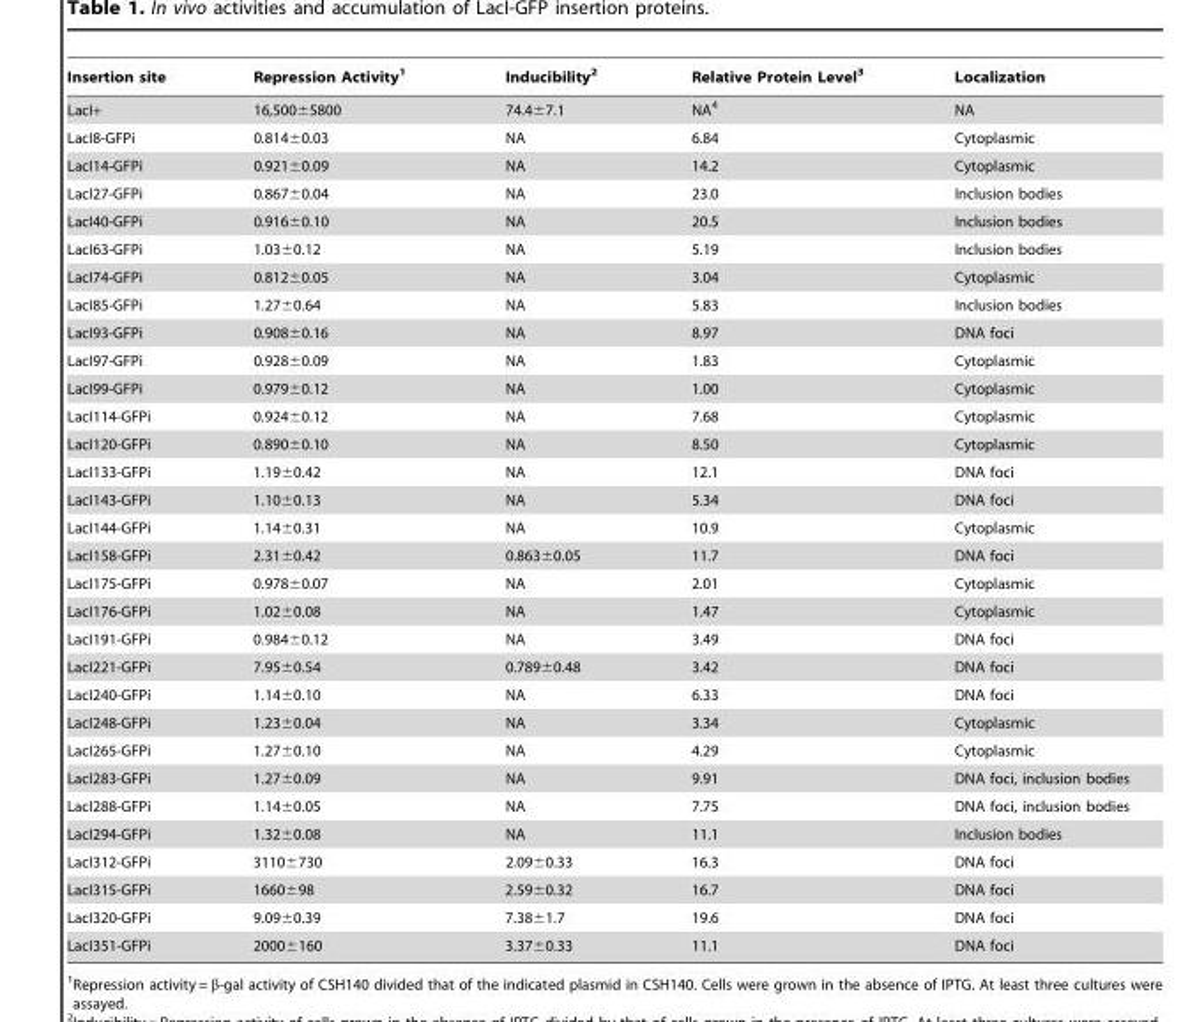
<table><thead><tr><td>Insertion site</td><td>Repression Activity<sup>1</sup></td><td>Inducibility<sup>2</sup></td><td>Relative Protein Level<sup>3</sup></td><td>Localization</td></tr></thead><tbody><tr><td>LacI+</td><td>16,500±5800</td><td>74.4±7.1</td><td>NA<sup>4</sup></td><td>NA</td></tr><tr><td>LacI8-GFPi</td><td>0.814±0.03</td><td>NA</td><td>6.84</td><td>Cytoplasmic</td></tr><tr><td>LacI14-GFPi</td><td>0.921±0.09</td><td>NA</td><td>14.2</td><td>Cytoplasmic</td></tr><tr><td>LacI27-GFPi</td><td>0.867±0.04</td><td>NA</td><td>23.0</td><td>Inclusion bodies</td></tr><tr><td>LacI40-GFPi</td><td>0.916±0.10</td><td>NA</td><td>20.5</td><td>Inclusion bodies</td></tr><tr><td>LacI63-GFPi</td><td>1.03±0.12</td><td>NA</td><td>5.19</td><td>Inclusion bodies</td></tr><tr><td>LacI74-GFPi</td><td>0.812±0.05</td><td>NA</td><td>3.04</td><td>Cytoplasmic</td></tr><tr><td>LacI85-GFPi</td><td>1.27±0.64</td><td>NA</td><td>5.83</td><td>Inclusion bodies</td></tr><tr><td>LacI93-GFPi</td><td>0.908±0.16</td><td>NA</td><td>8.97</td><td>DNA foci</td></tr><tr><td>LacI97-GFPi</td><td>0.928±0.09</td><td>NA</td><td>1.83</td><td>Cytoplasmic</td></tr><tr><td>LacI99-GFPi</td><td>0.979±0.12</td><td>NA</td><td>1.00</td><td>Cytoplasmic</td></tr><tr><td>LacI114-GFPi</td><td>0.924±0.12</td><td>NA</td><td>7.68</td><td>Cytoplasmic</td></tr><tr><td>LacI120-GFPi</td><td>0.890±0.10</td><td>NA</td><td>8.50</td><td>Cytoplasmic</td></tr><tr><td>LacI133-GFPi</td><td>1.19±0.42</td><td>NA</td><td>12.1</td><td>DNA foci</td></tr><tr><td>LacI143-GFPi</td><td>1.10±0.13</td><td>NA</td><td>5.34</td><td>DNA foci</td></tr><tr><td>LacI144-GFPi</td><td>1.14±0.31</td><td>NA</td><td>10.9</td><td>Cytoplasmic</td></tr><tr><td>LacI158-GFPi</td><td>2.31±0.42</td><td>0.863±0.05</td><td>11.7</td><td>DNA foci</td></tr><tr><td>LacI175-GFPi</td><td>0.978±0.07</td><td>NA</td><td>2.01</td><td>Cytoplasmic</td></tr><tr><td>LacI176-GFPi</td><td>1.02±0.08</td><td>NA</td><td>1.47</td><td>Cytoplasmic</td></tr><tr><td>LacI191-GFPi</td><td>0.984±0.12</td><td>NA</td><td>3.49</td><td>DNA foci</td></tr><tr><td>LacI221-GFPi</td><td>7.95±0.54</td><td>0.789±0.48</td><td>3.42</td><td>DNA foci</td></tr><tr><td>LacI240-GFPi</td><td>1.14±0.10</td><td>NA</td><td>6.33</td><td>DNA foci</td></tr><tr><td>LacI248-GFPi</td><td>1.23±0.04</td><td>NA</td><td>3.34</td><td>Cytoplasmic</td></tr><tr><td>LacI265-GFPi</td><td>1.27±0.10</td><td>NA</td><td>4.29</td><td>Cytoplasmic</td></tr><tr><td>LacI283-GFPi</td><td>1.27±0.09</td><td>NA</td><td>9.91</td><td>DNA foci, inclusion bodies</td></tr><tr><td>LacI288-GFPi</td><td>1.14±0.05</td><td>NA</td><td>7.75</td><td>DNA foci, inclusion bodies</td></tr><tr><td>LacI294-GFPi</td><td>1.32±0.08</td><td>NA</td><td>11.1</td><td>Inclusion bodies</td></tr><tr><td>LacI312-GFPi</td><td>3110±730</td><td>2.09±0.33</td><td>16.3</td><td>DNA foci</td></tr><tr><td>LacI315-GFPi</td><td>1660±98</td><td>2.59±0.32</td><td>16.7</td><td>DNA foci</td></tr><tr><td>LacI320-GFPi</td><td>9.09±0.39</td><td>7.38±1.7</td><td>19.6</td><td>DNA foci</td></tr><tr><td>LacI351-GFPi</td><td>2000±160</td><td>3.37±0.33</td><td>11.1</td><td>DNA foci</td></tr></tbody></table>